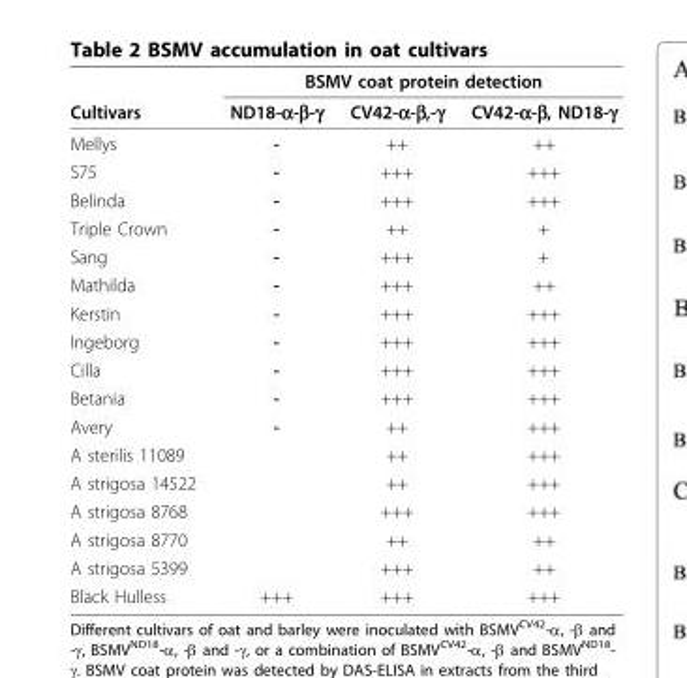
<table><thead><tr><td rowspan="2">Cultivars</td><td colspan="3">BSMV coat protein detection</td></tr><tr><td>ND18-α-β-γ</td><td>CV42-α-β,-γ</td><td>CV42-α-β, ND18-γ</td></tr></thead><tbody><tr><td>Mellys</td><td>-</td><td>++</td><td>++</td></tr><tr><td>S75</td><td>-</td><td>+++</td><td>+++</td></tr><tr><td>Belinda</td><td>-</td><td>+++</td><td>+++</td></tr><tr><td>Triple Crown</td><td>-</td><td>++</td><td>+</td></tr><tr><td>Sang</td><td>-</td><td>+++</td><td>+</td></tr><tr><td>Mathilda</td><td>-</td><td>+++</td><td>++</td></tr><tr><td>Kerstin</td><td>-</td><td>+++</td><td>+++</td></tr><tr><td>Ingeborg</td><td>-</td><td>+++</td><td>+++</td></tr><tr><td>Cilla</td><td>-</td><td>+++</td><td>+++</td></tr><tr><td>Betania</td><td>-</td><td>+++</td><td>+++</td></tr><tr><td>Avery</td><td>-</td><td>++</td><td>+++</td></tr><tr><td>A sterilis 11089</td><td></td><td>++</td><td>+++</td></tr><tr><td>A strigosa 14522</td><td></td><td>++</td><td>+++</td></tr><tr><td>A strigosa 8768</td><td></td><td>+++</td><td>+++</td></tr><tr><td>A strigosa 8770</td><td></td><td>++</td><td>++</td></tr><tr><td>A strigosa 5399</td><td></td><td>+++</td><td>++</td></tr><tr><td>Black Hulless</td><td>+++</td><td>+++</td><td>+++</td></tr></tbody></table>